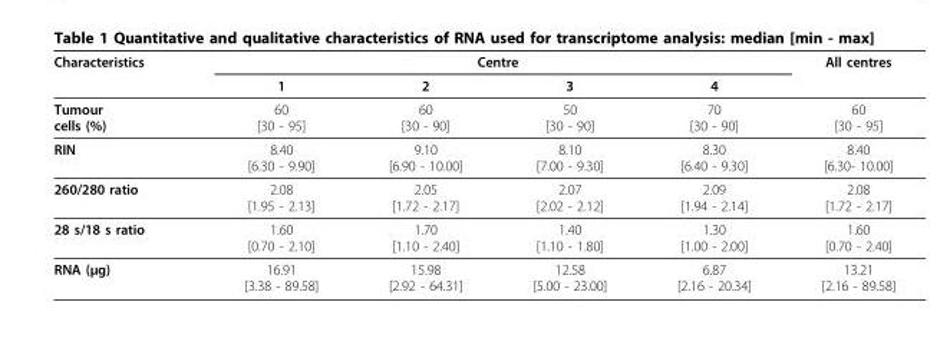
<table><thead><tr><td rowspan="2">Characteristics</td><td colspan="4">Centre</td><td rowspan="2">All centres</td></tr><tr><td>1</td><td>2</td><td>3</td><td>4</td></tr></thead><tbody><tr><td>Tumour cells (%)</td><td>60 [30 - 95]</td><td>60 [30 - 90]</td><td>50 [30 - 90]</td><td>70 [30 - 90]</td><td>60 [30 - 95]</td></tr><tr><td>RIN</td><td>8.40 [6.30 - 9.90]</td><td>9.10 [6.90 - 10.00]</td><td>8.10 [7.00 - 9.30]</td><td>8.30 [6.40 - 9.30]</td><td>8.40 [6.30- 10.00]</td></tr><tr><td>260/280 ratio</td><td>2.08 [1.95 - 2.13]</td><td>2.05 [1.72 - 2.17]</td><td>2.07 [2.02 - 2.12]</td><td>2.09 [1.94 - 2.14]</td><td>2.08 [1.72 - 2.17]</td></tr><tr><td>28 s/18 s ratio</td><td>1.60 [0.70 - 2.10]</td><td>1.70 [1.10 - 2.40]</td><td>1.40 [1.10 - 1.80]</td><td>1.30 [1.00 - 2.00]</td><td>1.60 [0.70 - 2.40]</td></tr><tr><td>RNA (μg)</td><td>16.91 [3.38 - 89.58]</td><td>15.98 [2.92 - 64.31]</td><td>12.58 [5.00 - 23.00]</td><td>6.87 [2.16 - 20.34]</td><td>13.21 [2.16 - 89.58]</td></tr></tbody></table>